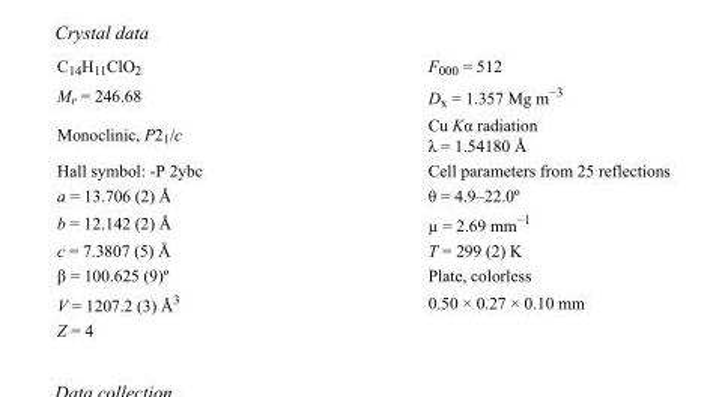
<table><tbody><tr><td>C<sub>14</sub>H<sub>11</sub>ClO<sub>2</sub></td><td>F<sub>000</sub> = 512</td></tr><tr><td>M<sub>r</sub> = 246.68</td><td>D<sub>x</sub> = 1.357 Mg m<sup>−3</sup></td></tr><tr><td>Monoclinic, P2<sub>1</sub>/c</td><td>Cu Kα radiation λ = 1.54180 Å</td></tr><tr><td>Hall symbol: -P 2ybc</td><td>Cell parameters from 25 reflections</td></tr><tr><td>a = 13.706 (2) Å</td><td>θ = 4.9–22.0º</td></tr><tr><td>b = 12.142 (2) Å</td><td>µ = 2.69 mm<sup>−1</sup></td></tr><tr><td>c = 7.3807 (5) Å</td><td>T = 299 (2) K</td></tr><tr><td>β = 100.625 (9)º</td><td>Plate, colorless</td></tr><tr><td>V = 1207.2 (3) Å<sup>3</sup></td><td>0.50 × 0.27 × 0.10 mm</td></tr><tr><td>Z = 4</td><td></td></tr></tbody></table>